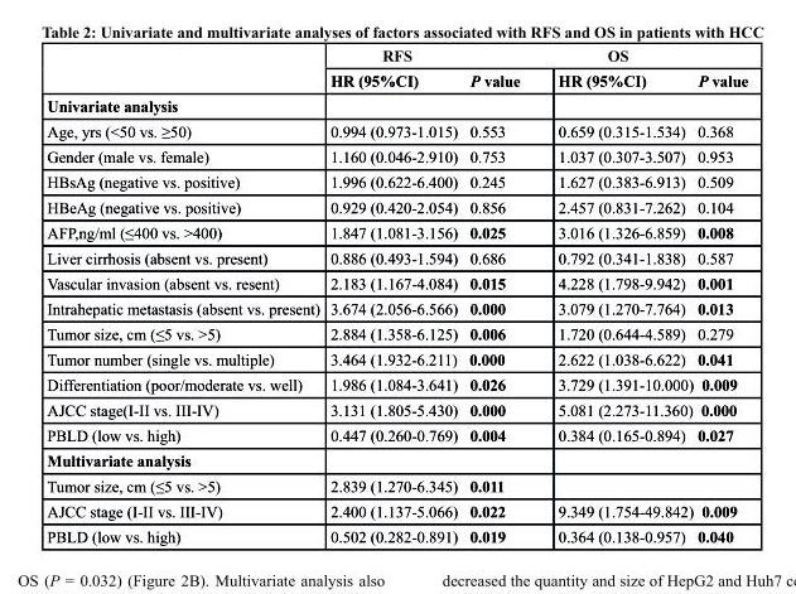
<table><thead><tr><td rowspan="2"></td><td colspan="2">rFs</td><td colspan="2">os</td></tr><tr><td>Hr (95%cI)</td><td>P value</td><td>Hr (95%cI)</td><td>P value</td></tr></thead><tbody><tr><td colspan="5">univariate analysis</td></tr><tr><td>Age, yrs (&lt;50 vs. ≥50)</td><td>0.994 (0.973-1.015)</td><td>0.553</td><td>0.659 (0.315-1.534)</td><td>0.368</td></tr><tr><td>Gender (male vs. female)</td><td>1.160 (0.046-2.910)</td><td>0.753</td><td>1.037 (0.307-3.507)</td><td>0.953</td></tr><tr><td>HBsAg (negative vs. positive)</td><td>1.996 (0.622-6.400)</td><td>0.245</td><td>1.627 (0.383-6.913)</td><td>0.509</td></tr><tr><td>HBeAg (negative vs. positive)</td><td>0.929 (0.420-2.054)</td><td>0.856</td><td>2.457 (0.831-7.262)</td><td>0.104</td></tr><tr><td>AFP,ng/ml (≤400 vs. &gt;400)</td><td>1.847 (1.081-3.156)</td><td>0.025</td><td>3.016 (1.326-6.859)</td><td>0.008</td></tr><tr><td>Liver cirrhosis (absent vs. present)</td><td>0.886 (0.493-1.594)</td><td>0.686</td><td>0.792 (0.341-1.838)</td><td>0.587</td></tr><tr><td>Vascular invasion (absent vs. resent)</td><td>2.183 (1.167-4.084)</td><td>0.015</td><td>4.228 (1.798-9.942)</td><td>0.001</td></tr><tr><td>Intrahepatic metastasis (absent vs. present)</td><td>3.674 (2.056-6.566)</td><td>0.000</td><td>3.079 (1.270-7.764)</td><td>0.013</td></tr><tr><td>Tumor size, cm (≤5 vs. &gt;5)</td><td>2.884 (1.358-6.125)</td><td>0.006</td><td>1.720 (0.644-4.589)</td><td>0.279</td></tr><tr><td>Tumor number (single vs. multiple)</td><td>3.464 (1.932-6.211)</td><td>0.000</td><td>2.622 (1.038-6.622)</td><td>0.041</td></tr><tr><td>Differentiation (poor/moderate vs. well)</td><td>1.986 (1.084-3.641)</td><td>0.026</td><td>3.729 (1.391-10.000)</td><td>0.009</td></tr><tr><td>AJCC stage(I-II vs. III-IV)</td><td>3.131 (1.805-5.430)</td><td>0.000</td><td>5.081 (2.273-11.360)</td><td>0.000</td></tr><tr><td>PBLD (low vs. high)</td><td>0.447 (0.260-0.769)</td><td>0.004</td><td>0.384 (0.165-0.894)</td><td>0.027</td></tr><tr><td colspan="5">Multivariate analysis</td></tr><tr><td>Tumor size, cm (≤5 vs. &gt;5)</td><td>2.839 (1.270-6.345)</td><td>0.011</td><td></td><td></td></tr><tr><td>AJCC stage (I-II vs. III-IV)</td><td>2.400 (1.137-5.066)</td><td>0.022</td><td>9.349 (1.754-49.842)</td><td>0.009</td></tr><tr><td>PBLD (low vs. high)</td><td>0.502 (0.282-0.891)</td><td>0.019</td><td>0.364 (0.138-0.957)</td><td>0.040</td></tr></tbody></table>